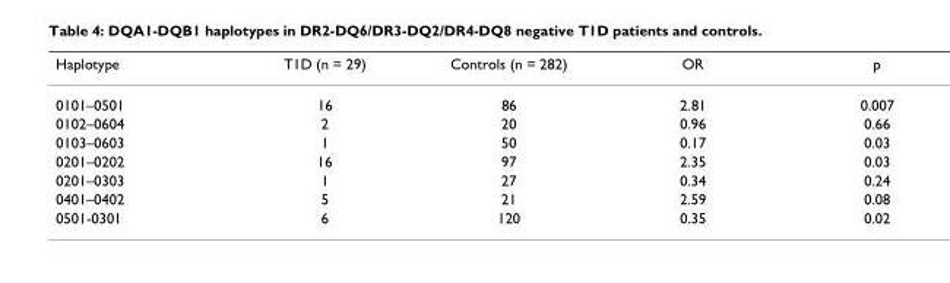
<table><thead><tr><td>Haplotype</td><td>T1D (n = 29)</td><td>Controls (n = 282)</td><td>OR</td><td>p</td></tr></thead><tbody><tr><td>0101–0501</td><td>16</td><td>86</td><td>2.81</td><td>0.007</td></tr><tr><td>0102–0604</td><td>2</td><td>20</td><td>0.96</td><td>0.66</td></tr><tr><td>0103–0603</td><td>1</td><td>50</td><td>0.17</td><td>0.03</td></tr><tr><td>0201–0202</td><td>16</td><td>97</td><td>2.35</td><td>0.03</td></tr><tr><td>0201–0303</td><td>1</td><td>27</td><td>0.34</td><td>0.24</td></tr><tr><td>0401–0402</td><td>5</td><td>21</td><td>2.59</td><td>0.08</td></tr><tr><td>0501-0301</td><td>6</td><td>120</td><td>0.35</td><td>0.02</td></tr></tbody></table>